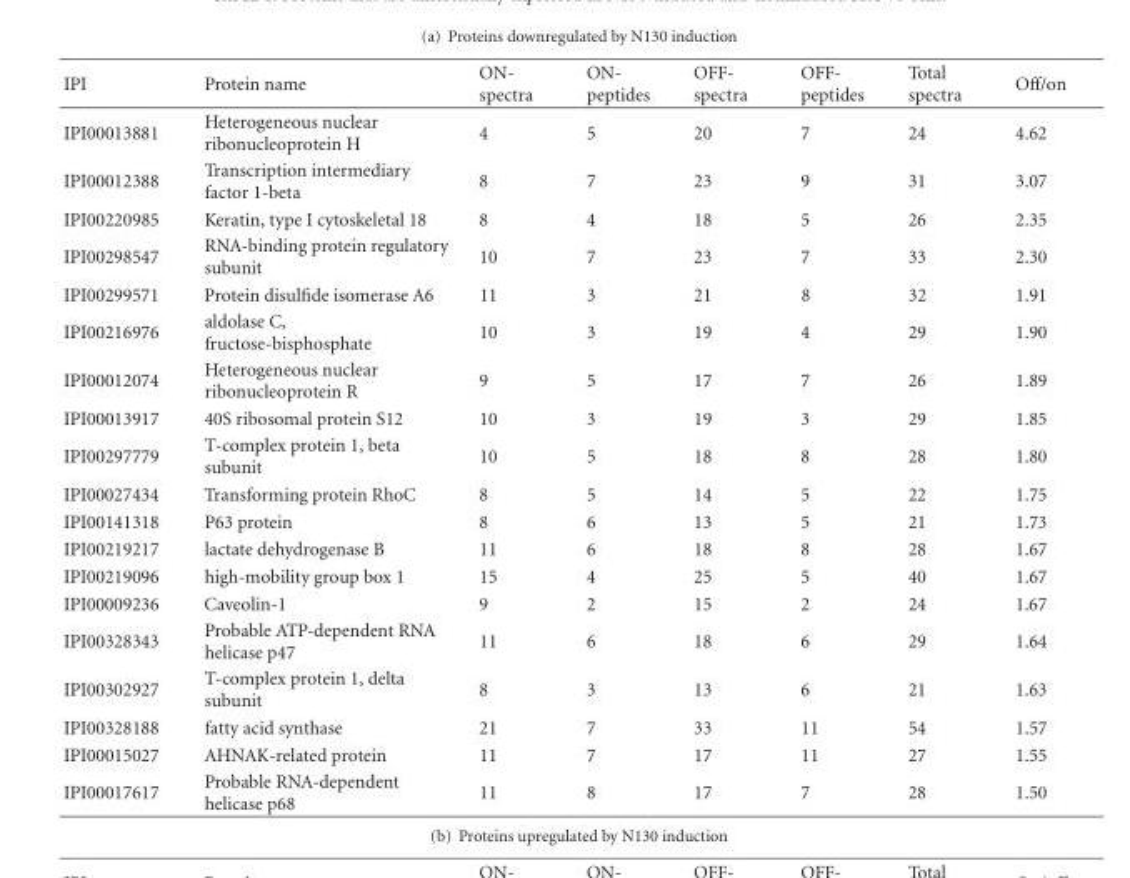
<table><thead><tr><td>IPI</td><td>Protein name</td><td>ON- spectra</td><td>ON- peptides</td><td>OFF- spectra</td><td>OFF- peptides</td><td>Total spectra</td><td>Off/on</td></tr></thead><tbody><tr><td>IPI00013881</td><td>Heterogeneous nuclear ribonucleoprotein H</td><td>4</td><td>5</td><td>20</td><td>7</td><td>24</td><td>4.62</td></tr><tr><td>IPI00012388</td><td>Transcription intermediary factor 1-beta</td><td>8</td><td>7</td><td>23</td><td>9</td><td>31</td><td>3.07</td></tr><tr><td>IPI00220985</td><td>Keratin, type I cytoskeletal 18</td><td>8</td><td>4</td><td>18</td><td>5</td><td>26</td><td>2.35</td></tr><tr><td>IPI00298547</td><td>RNA-binding protein regulatory subunit</td><td>10</td><td>7</td><td>23</td><td>7</td><td>33</td><td>2.30</td></tr><tr><td>IPI00299571</td><td>Protein disulfide isomerase A6</td><td>11</td><td>3</td><td>21</td><td>8</td><td>32</td><td>1.91</td></tr><tr><td>IPI00216976</td><td>aldolase C, fructose-bisphosphate</td><td>10</td><td>3</td><td>19</td><td>4</td><td>29</td><td>1.90</td></tr><tr><td>IPI00012074</td><td>Heterogeneous nuclear ribonucleoprotein R</td><td>9</td><td>5</td><td>17</td><td>7</td><td>26</td><td>1.89</td></tr><tr><td>IPI00013917</td><td>40S ribosomal protein S12</td><td>10</td><td>3</td><td>19</td><td>3</td><td>29</td><td>1.85</td></tr><tr><td>IPI00297779</td><td>T-complex protein 1, beta subunit</td><td>10</td><td>5</td><td>18</td><td>8</td><td>28</td><td>1.80</td></tr><tr><td>IPI00027434</td><td>Transforming protein RhoC</td><td>8</td><td>5</td><td>14</td><td>5</td><td>22</td><td>1.75</td></tr><tr><td>IPI00141318</td><td>P63 protein</td><td>8</td><td>6</td><td>13</td><td>5</td><td>21</td><td>1.73</td></tr><tr><td>IPI00219217</td><td>lactate dehydrogenase B</td><td>11</td><td>6</td><td>18</td><td>8</td><td>28</td><td>1.67</td></tr><tr><td>IPI00219096</td><td>high-mobility group box 1</td><td>15</td><td>4</td><td>25</td><td>5</td><td>40</td><td>1.67</td></tr><tr><td>IPI00009236</td><td>Caveolin-1</td><td>9</td><td>2</td><td>15</td><td>2</td><td>24</td><td>1.67</td></tr><tr><td>IPI00328343</td><td>Probable ATP-dependent RNA helicase p47</td><td>11</td><td>6</td><td>18</td><td>6</td><td>29</td><td>1.64</td></tr><tr><td>IPI00302927</td><td>T-complex protein 1, delta subunit</td><td>8</td><td>3</td><td>13</td><td>6</td><td>21</td><td>1.63</td></tr><tr><td>IPI00328188</td><td>fatty acid synthase</td><td>21</td><td>7</td><td>33</td><td>11</td><td>54</td><td>1.57</td></tr><tr><td>IPI00015027</td><td>AHNAK-related protein</td><td>11</td><td>7</td><td>17</td><td>11</td><td>27</td><td>1.55</td></tr><tr><td>IPI00017617</td><td>Probable RNA-dependent helicase p68</td><td>11</td><td>8</td><td>17</td><td>7</td><td>28</td><td>1.50</td></tr></tbody></table>